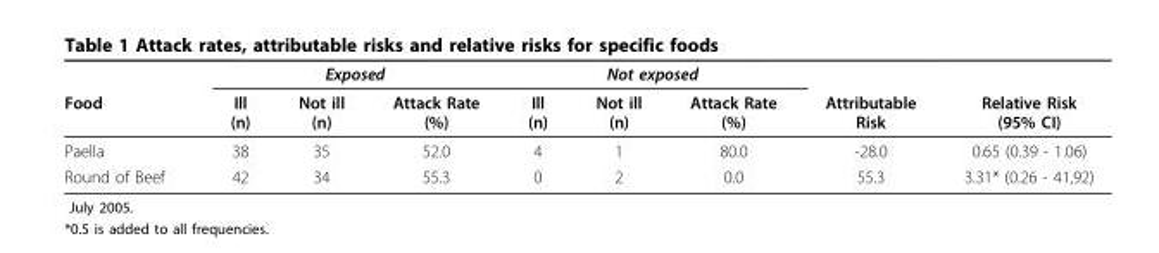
<table><thead><tr><td rowspan="2">Food</td><td colspan="3">Exposed</td><td colspan="3">Not exposed</td><td rowspan="2">Attributable Risk</td><td rowspan="2">Relative Risk (95% CI)</td></tr><tr><td>Ill (n)</td><td>Not ill (n)</td><td>Attack Rate (%)</td><td>Ill (n)</td><td>Not ill (n)</td><td>Attack Rate (%)</td></tr></thead><tbody><tr><td>Paella</td><td>38</td><td>35</td><td>52.0</td><td>4</td><td>1</td><td>80.0</td><td>-28.0</td><td>0.65 (0.39 - 1.06)</td></tr><tr><td>Round of Beef</td><td>42</td><td>34</td><td>55.3</td><td>0</td><td>2</td><td>0.0</td><td>55.3</td><td>3.31* (0.26 - 41,92)</td></tr></tbody></table>